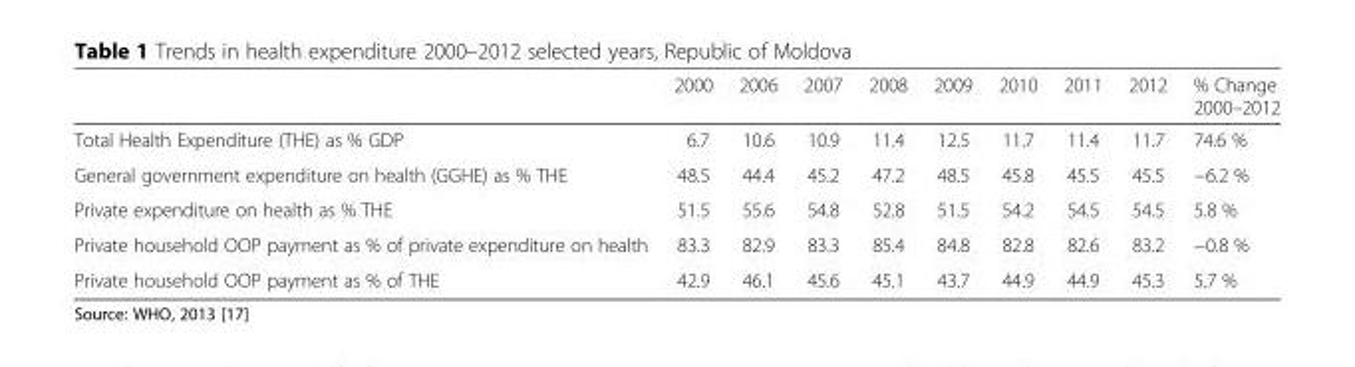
<table><thead><tr><td></td><td>2000</td><td>2006</td><td>2007</td><td>2008</td><td>2009</td><td>2010</td><td>2011</td><td>2012</td><td>% Change 2000–2012</td></tr></thead><tbody><tr><td>Total Health Expenditure (THE) as % GDP</td><td>6.7</td><td>10.6</td><td>10.9</td><td>11.4</td><td>12.5</td><td>11.7</td><td>11.4</td><td>11.7</td><td>74.6 %</td></tr><tr><td>General government expenditure on health (GGHE) as % THE</td><td>48.5</td><td>44.4</td><td>45.2</td><td>47.2</td><td>48.5</td><td>45.8</td><td>45.5</td><td>45.5</td><td>−6.2 %</td></tr><tr><td>Private expenditure on health as % THE</td><td>51.5</td><td>55.6</td><td>54.8</td><td>52.8</td><td>51.5</td><td>54.2</td><td>54.5</td><td>54.5</td><td>5.8 %</td></tr><tr><td>Private household OOP payment as % of private expenditure on health</td><td>83.3</td><td>82.9</td><td>83.3</td><td>85.4</td><td>84.8</td><td>82.8</td><td>82.6</td><td>83.2</td><td>−0.8 %</td></tr><tr><td>Private household OOP payment as % of THE</td><td>42.9</td><td>46.1</td><td>45.6</td><td>45.1</td><td>43.7</td><td>44.9</td><td>44.9</td><td>45.3</td><td>5.7 %</td></tr></tbody></table>